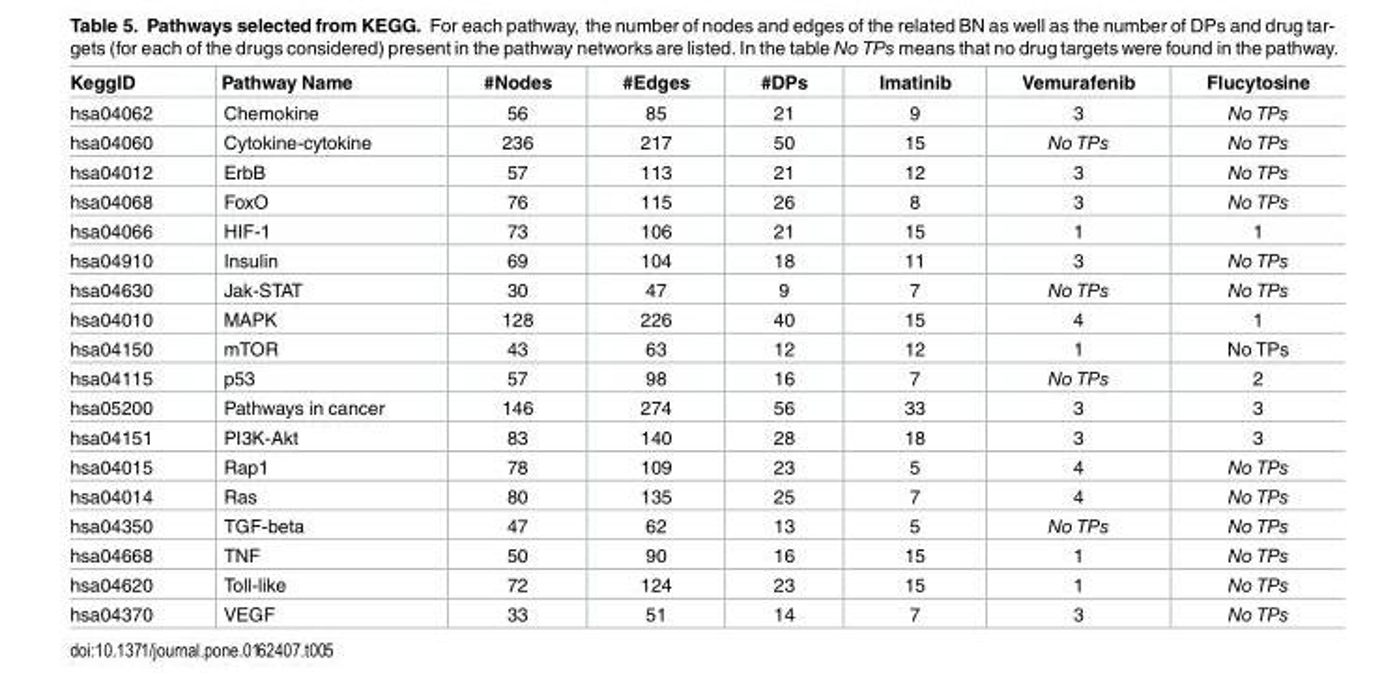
<table><thead><tr><td>KeggID</td><td>Pathway Name</td><td>#Nodes</td><td>#Edges</td><td>#DPs</td><td>Imatinib</td><td>Vemurafenib</td><td>Flucytosine</td></tr></thead><tbody><tr><td>hsa04062</td><td>Chemokine</td><td>56</td><td>85</td><td>21</td><td>9</td><td>3</td><td>No TPs</td></tr><tr><td>hsa04060</td><td>Cytokine-cytokine</td><td>236</td><td>217</td><td>50</td><td>15</td><td>No TPs</td><td>No TPs</td></tr><tr><td>hsa04012</td><td>ErbB</td><td>57</td><td>113</td><td>21</td><td>12</td><td>3</td><td>No TPs</td></tr><tr><td>hsa04068</td><td>FoxO</td><td>76</td><td>115</td><td>26</td><td>8</td><td>3</td><td>No TPs</td></tr><tr><td>hsa04066</td><td>HIF-1</td><td>73</td><td>106</td><td>21</td><td>15</td><td>1</td><td>1</td></tr><tr><td>hsa04910</td><td>Insulin</td><td>69</td><td>104</td><td>18</td><td>11</td><td>3</td><td>No TPs</td></tr><tr><td>hsa04630</td><td>Jak-STAT</td><td>30</td><td>47</td><td>9</td><td>7</td><td>No TPs</td><td>No TPs</td></tr><tr><td>hsa04010</td><td>MAPK</td><td>128</td><td>226</td><td>40</td><td>15</td><td>4</td><td>1</td></tr><tr><td>hsa04150</td><td>mTOR</td><td>43</td><td>63</td><td>12</td><td>12</td><td>1</td><td>No TPs</td></tr><tr><td>hsa04115</td><td>p53</td><td>57</td><td>98</td><td>16</td><td>7</td><td>No TPs</td><td>2</td></tr><tr><td>hsa05200</td><td>Pathways in cancer</td><td>146</td><td>274</td><td>56</td><td>33</td><td>3</td><td>3</td></tr><tr><td>hsa04151</td><td>PI3K-Akt</td><td>83</td><td>140</td><td>28</td><td>18</td><td>3</td><td>3</td></tr><tr><td>hsa04015</td><td>Rap1</td><td>78</td><td>109</td><td>23</td><td>5</td><td>4</td><td>No TPs</td></tr><tr><td>hsa04014</td><td>Ras</td><td>80</td><td>135</td><td>25</td><td>7</td><td>4</td><td>No TPs</td></tr><tr><td>hsa04350</td><td>TGF-beta</td><td>47</td><td>62</td><td>13</td><td>5</td><td>No TPs</td><td>No TPs</td></tr><tr><td>hsa04668</td><td>TNF</td><td>50</td><td>90</td><td>16</td><td>15</td><td>1</td><td>No TPs</td></tr><tr><td>hsa04620</td><td>Toll-like</td><td>72</td><td>124</td><td>23</td><td>15</td><td>1</td><td>No TPs</td></tr><tr><td>hsa04370</td><td>VEGF</td><td>33</td><td>51</td><td>14</td><td>7</td><td>3</td><td>No TPs</td></tr></tbody></table>